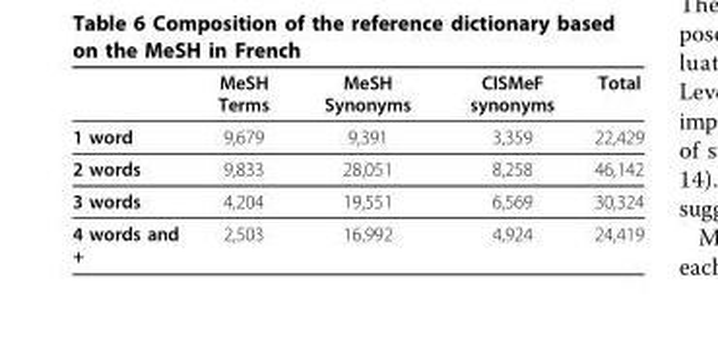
<table><thead><tr><td></td><td>MeSH Terms</td><td>MeSH Synonyms</td><td>CISMeF synonyms</td><td>Total</td></tr></thead><tbody><tr><td>1 word</td><td>9,679</td><td>9,391</td><td>3,359</td><td>22,429</td></tr><tr><td>2 words</td><td>9,833</td><td>28,051</td><td>8,258</td><td>46,142</td></tr><tr><td>3 words</td><td>4,204</td><td>19,551</td><td>6,569</td><td>30,324</td></tr><tr><td>4 words and +</td><td>2,503</td><td>16,992</td><td>4,924</td><td>24,419</td></tr></tbody></table>